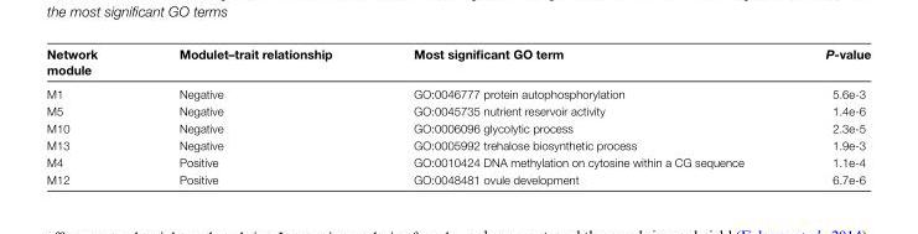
<table><thead><tr><td>Network module</td><td>Modulet–trait relationship</td><td>Most significant GO term</td><td>P-value</td></tr></thead><tbody><tr><td>M1</td><td>Negative</td><td>GO:0046777 protein autophosphorylation</td><td>5.6e-3</td></tr><tr><td>M5</td><td>Negative</td><td>GO:0045735 nutrient reservoir activity</td><td>1.4e-6</td></tr><tr><td>M10</td><td>Negative</td><td>GO:0006096 glycolytic process</td><td>2.3e-5</td></tr><tr><td>M13</td><td>Negative</td><td>GO:0005992 trehalose biosynthetic process</td><td>1.9e-3</td></tr><tr><td>M4</td><td>Positive</td><td>GO:0010424 DNA methylation on cytosine within a CG sequence</td><td>1.1e-4</td></tr><tr><td>M12</td><td>Positive</td><td>GO:0048481 ovule development</td><td>6.7e-6</td></tr></tbody></table>